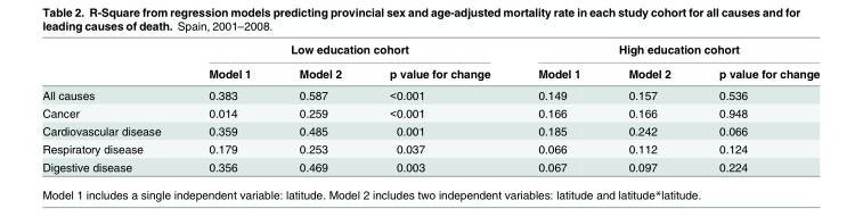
<table><thead><tr><td rowspan="2"></td><td colspan="3">Low education cohort</td><td colspan="3">High education cohort</td></tr><tr><td>Model 1</td><td>Model 2</td><td>p value for change</td><td>Model 1</td><td>Model 2</td><td>p value for change</td></tr></thead><tbody><tr><td>All causes</td><td>0.383</td><td>0.587</td><td>&lt;0.001</td><td>0.149</td><td>0.157</td><td>0.536</td></tr><tr><td>Cancer</td><td>0.014</td><td>0.259</td><td>&lt;0.001</td><td>0.166</td><td>0.166</td><td>0.948</td></tr><tr><td>Cardiovascular disease</td><td>0.359</td><td>0.485</td><td>0.001</td><td>0.185</td><td>0.242</td><td>0.066</td></tr><tr><td>Respiratory disease</td><td>0.179</td><td>0.253</td><td>0.037</td><td>0.066</td><td>0.112</td><td>0.124</td></tr><tr><td>Digestive disease</td><td>0.356</td><td>0.469</td><td>0.003</td><td>0.067</td><td>0.097</td><td>0.224</td></tr></tbody></table>